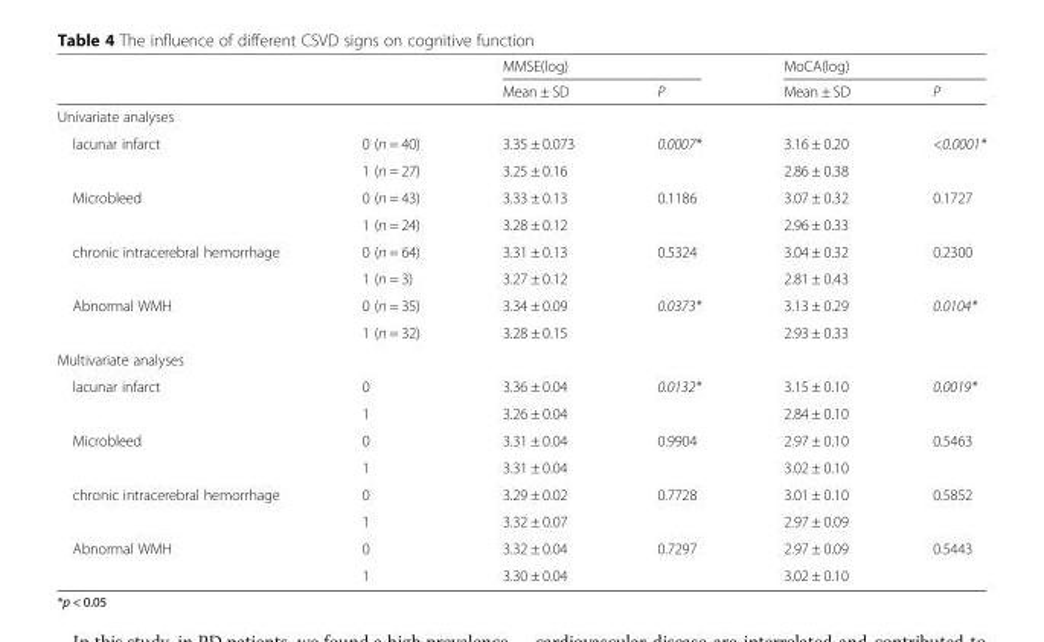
<table><thead><tr><td rowspan="2"></td><td rowspan="2"></td><td colspan="2">MMSE(log)</td><td colspan="2">MoCA(log)</td></tr><tr><td>Mean ± SD</td><td>P</td><td>Mean ± SD</td><td>P</td></tr></thead><tbody><tr><td colspan="6">Univariate analyses</td></tr><tr><td rowspan="2">lacunar infarct</td><td>0 (n = 40)</td><td>3.35 ± 0.073</td><td rowspan="2">0.0007*</td><td>3.16 ± 0.20</td><td rowspan="2">&lt;0.0001*</td></tr><tr><td>1 (n = 27)</td><td>3.25 ± 0.16</td><td>2.86 ± 0.38</td></tr><tr><td rowspan="2">Microbleed</td><td>0 (n = 43)</td><td>3.33 ± 0.13</td><td rowspan="2">0.1186</td><td>3.07 ± 0.32</td><td rowspan="2">0.1727</td></tr><tr><td>1 (n = 24)</td><td>3.28 ± 0.12</td><td>2.96 ± 0.33</td></tr><tr><td rowspan="2">chronic intracerebral hemorrhage</td><td>0 (n = 64)</td><td>3.31 ± 0.13</td><td rowspan="2">0.5324</td><td>3.04 ± 0.32</td><td rowspan="2">0.2300</td></tr><tr><td>1 (n = 3)</td><td>3.27 ± 0.12</td><td>2.81 ± 0.43</td></tr><tr><td rowspan="2">Abnormal WMH</td><td>0 (n = 35)</td><td>3.34 ± 0.09</td><td rowspan="2">0.0373*</td><td>3.13 ± 0.29</td><td rowspan="2">0.0104*</td></tr><tr><td>1 (n = 32)</td><td>3.28 ± 0.15</td><td>2.93 ± 0.33</td></tr><tr><td colspan="6">Multivariate analyses</td></tr><tr><td rowspan="2">lacunar infarct</td><td>0</td><td>3.36 ± 0.04</td><td rowspan="2">0.0132*</td><td>3.15 ± 0.10</td><td rowspan="2">0.0019*</td></tr><tr><td>1</td><td>3.26 ± 0.04</td><td>2.84 ± 0.10</td></tr><tr><td rowspan="2">Microbleed</td><td>0</td><td>3.31 ± 0.04</td><td rowspan="2">0.9904</td><td>2.97 ± 0.10</td><td rowspan="2">0.5463</td></tr><tr><td>1</td><td>3.31 ± 0.04</td><td>3.02 ± 0.10</td></tr><tr><td rowspan="2">chronic intracerebral hemorrhage</td><td>0</td><td>3.29 ± 0.02</td><td rowspan="2">0.7728</td><td>3.01 ± 0.10</td><td rowspan="2">0.5852</td></tr><tr><td>1</td><td>3.32 ± 0.07</td><td>2.97 ± 0.09</td></tr><tr><td rowspan="2">Abnormal WMH</td><td>0</td><td>3.32 ± 0.04</td><td rowspan="2">0.7297</td><td>2.97 ± 0.09</td><td rowspan="2">0.5443</td></tr><tr><td>1</td><td>3.30 ± 0.04</td><td>3.02 ± 0.10</td></tr></tbody></table>